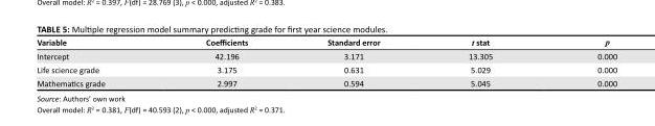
<table><thead><tr><td>Variable</td><td>Coefficients</td><td>Standard error</td><td>t stat</td><td>p</td></tr></thead><tbody><tr><td>Intercept</td><td>42.196</td><td>3.171</td><td>13.305</td><td>0.000</td></tr><tr><td>Life science grade</td><td>3.175</td><td>0.631</td><td>5.029</td><td>0.000</td></tr><tr><td>Mathematics grade</td><td>2.997</td><td>0.594</td><td>5.045</td><td>0.000</td></tr></tbody></table>